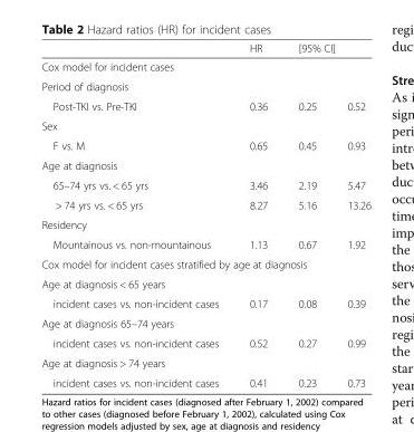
<table><thead><tr><td></td><td>HR</td><td colspan="2">[95% CI]</td></tr><tr><td rowspan="2" colspan="4">Cox model for incident cases Period of diagnosis</td></tr><tr></tr><tr><td>Post-TKI vs. Pre-TKI</td><td>0.36</td><td>0.25</td><td>0.52</td></tr></thead><tbody><tr><td colspan="4">Sex</td></tr><tr><td>F vs. M</td><td>0.65</td><td>0.45</td><td>0.93</td></tr><tr><td colspan="4">Age at diagnosis</td></tr><tr><td>65–74 yrs vs. &lt; 65 yrs</td><td>3.46</td><td>2.19</td><td>5.47</td></tr><tr><td>&gt; 74 yrs vs. &lt; 65 yrs</td><td>8.27</td><td>5.16</td><td>13.26</td></tr><tr><td colspan="4">Residency</td></tr><tr><td>Mountainous vs. non-mountainous</td><td>1.13</td><td>0.67</td><td>1.92</td></tr><tr><td colspan="4">Cox model for incident cases stratified by age at diagnosis</td></tr><tr><td colspan="4">Age at diagnosis &lt; 65 years</td></tr><tr><td>incident cases vs. non-incident cases</td><td>0.17</td><td>0.08</td><td>0.39</td></tr><tr><td colspan="4">Age at diagnosis 65–74 years</td></tr><tr><td>incident cases vs. non-incident cases</td><td>0.52</td><td>0.27</td><td>0.99</td></tr><tr><td colspan="4">Age at diagnosis &gt; 74 years</td></tr><tr><td>incident cases vs. non-incident cases</td><td>0.41</td><td>0.23</td><td>0.73</td></tr></tbody></table>